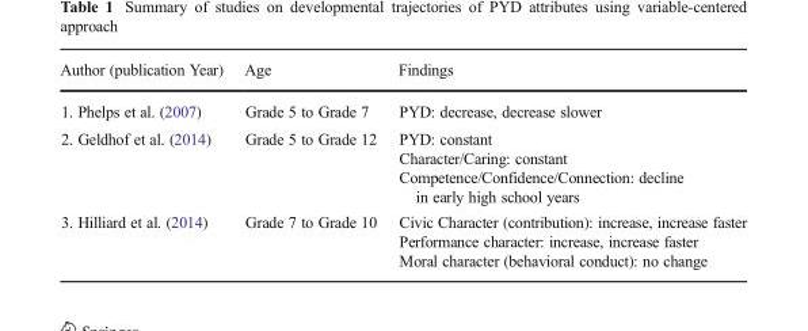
<table><thead><tr><td>Author (publication Year)</td><td>Age</td><td>Findings</td></tr></thead><tbody><tr><td>1. Phelps et al. (2007)</td><td>Grade 5 to Grade 7</td><td>PYD: decrease, decrease slower</td></tr><tr><td>2. Geldhof et al. (2014)</td><td>Grade 5 to Grade 12</td><td>PYD: constant Character/Caring: constant Competence/Confidence/Connection: decline in early high school years</td></tr><tr><td>3. Hilliard et al. (2014)</td><td>Grade 7 to Grade 10</td><td>Civic Character (contribution): increase, increase faster Performance character: increase, increase faster Moral character (behavioral conduct): no change</td></tr></tbody></table>